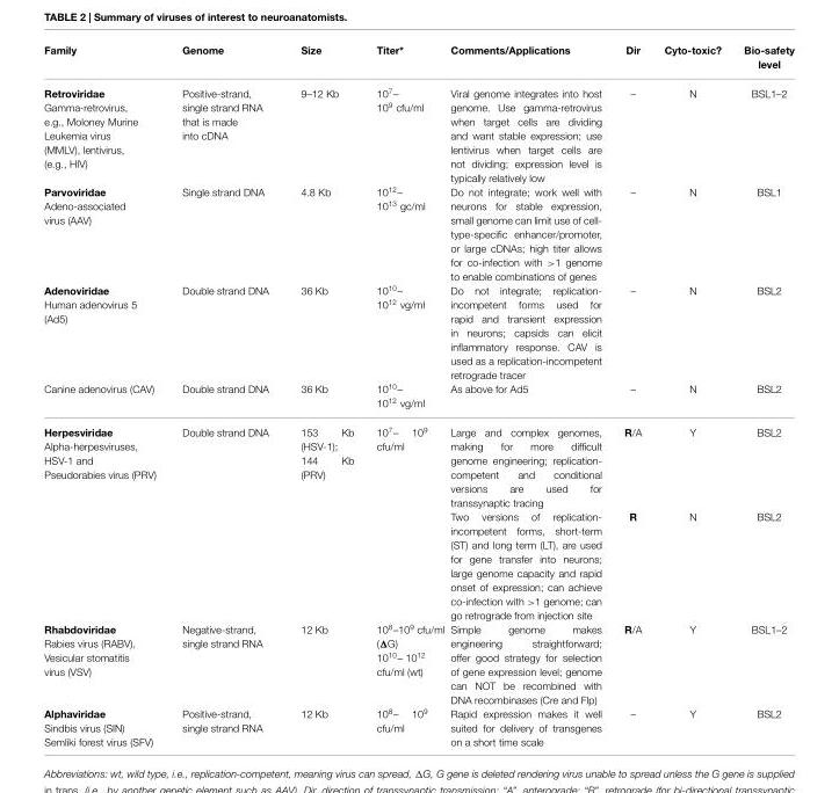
<table><thead><tr><td>Family</td><td>Genome</td><td>Size</td><td>Titer*</td><td>Comments/Applications</td><td>Dir</td><td>Cyto-toxic?</td><td>Bio-safety level</td></tr></thead><tbody><tr><td>Retroviridae Gamma-retrovirus, e.g., Moloney Murine Leukemia virus (MMLV), lentivirus, (e.g., HIV)</td><td>Positive-strand, single strand RNA that is made into cDNA</td><td>9–12 Kb</td><td>10<sup>7</sup>– 10<sup>9</sup> cfu/ml</td><td>Viral genome integrates into host genome. Use gamma-retrovirus when target cells are dividing and want stable expression; use lentivirus when target cells are not dividing; expression level is typically relatively low</td><td>–</td><td>N</td><td>BSL1–2</td></tr><tr><td>Parvoviridae Adeno-associated virus (AAV)</td><td>Single strand DNA</td><td>4.8 Kb</td><td>10<sup>12</sup>– 10<sup>13</sup> gc/ml</td><td>Do not integrate; work well with neurons for stable expression, small genome can limit use of cell- type-specific enhancer/promoter, or large cDNAs; high titer allows for co-infection with &gt;1 genome to enable combinations of genes</td><td>–</td><td>N</td><td>BSL1</td></tr><tr><td>Adenoviridae Human adenovirus 5 (Ad5)</td><td>Double strand DNA</td><td>36 Kb</td><td>10<sup>10</sup>– 10<sup>12</sup> vg/ml</td><td>Do not integrate; replication- incompetent forms used for rapid and transient expression in neurons; capsids can elicit inflammatory response. CAV is used as a replication-incompetent retrograde tracer</td><td>–</td><td>N</td><td>BSL2</td></tr><tr><td>Canine adenovirus (CAV)</td><td>Double strand DNA</td><td>36 Kb</td><td>10<sup>10</sup>– 10<sup>12</sup> vg/ml</td><td>As above for Ad5</td><td>–</td><td>N</td><td>BSL2</td></tr><tr><td rowspan="2">Herpesviridae Alpha-herpesviruses, HSV-1 and Pseudorabies virus (PRV)</td><td>Double strand DNA</td><td>153 Kb (HSV-1); 144 Kb (PRV)</td><td>10<sup>7</sup>– 10<sup>9</sup> cfu/ml</td><td>Large and complex genomes, making for more difficult genome engineering; replication- competent and conditional versions are used for transsynaptic tracing</td><td>R/A</td><td>Y</td><td>BSL2</td></tr><tr><td></td><td></td><td></td><td>Two versions of replication- incompetent forms, short-term (ST) and long term (LT), are used for gene transfer into neurons; large genome capacity and rapid onset of expression; can achieve co-infection with &gt;1 genome; can go retrograde from injection site</td><td>R</td><td>N</td><td>BSL2</td></tr><tr><td>Rhabdoviridae Rabies virus (RABV), Vesicular stomatitis virus (VSV)</td><td>Negative-strand, single strand RNA</td><td>12 Kb</td><td>108–109 cfu/ml (∆G) 1010– 1012 cfu/ml (wt)</td><td>Simple genome makes engineering straightforward; offer good strategy for selection of gene expression level; genome can NOT be recombined with DNA recombinases (Cre and Flp)</td><td>R/A</td><td>Y</td><td>BSL1–2</td></tr><tr><td>Alphaviridae Sindbis virus (SIN) Semliki forest virus (SFV)</td><td>Positive-strand, single strand RNA</td><td>12 Kb</td><td>10<sup>8</sup>– 10<sup>9</sup> cfu/ml</td><td>Rapid expression makes it well suited for delivery of transgenes on a short time scale</td><td>–</td><td>Y</td><td>BSL2</td></tr></tbody></table>